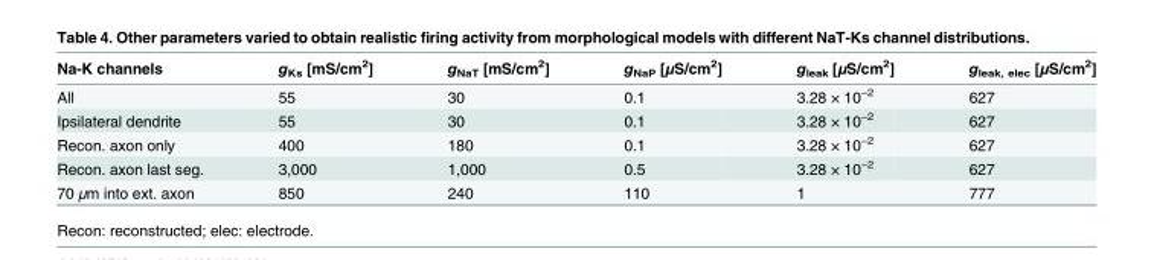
<table><thead><tr><td>Na-K channels</td><td>g<sub>Ks</sub> [mS/cm<sup>2</sup>]</td><td>g<sub>NaT</sub> [mS/cm<sup>2</sup>]</td><td>g<sub>NaP</sub> [μS/cm<sup>2</sup>]</td><td>g<sub>leak</sub> [μS/cm<sup>2</sup>]</td><td>g<sub>leak, elec</sub> [μS/cm<sup>2</sup>]</td></tr></thead><tbody><tr><td>All</td><td>55</td><td>30</td><td>0.1</td><td>3.28 × 10<sup>−2</sup></td><td>627</td></tr><tr><td>Ipsilateral dendrite</td><td>55</td><td>30</td><td>0.1</td><td>3.28 × 10<sup>−2</sup></td><td>627</td></tr><tr><td>Recon. axon only</td><td>400</td><td>180</td><td>0.1</td><td>3.28 × 10<sup>−2</sup></td><td>627</td></tr><tr><td>Recon. axon last seg.</td><td>3,000</td><td>1,000</td><td>0.5</td><td>3.28 × 10<sup>−2</sup></td><td>627</td></tr><tr><td>70 μm into ext. axon</td><td>850</td><td>240</td><td>110</td><td>1</td><td>777</td></tr></tbody></table>